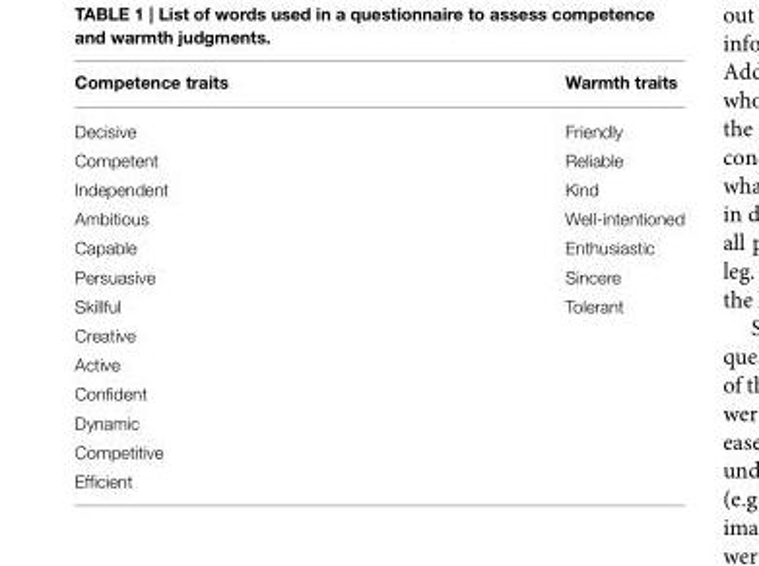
<table><thead><tr><td>Competence traits</td><td>Warmth traits</td></tr></thead><tbody><tr><td>Decisive</td><td>Friendly</td></tr><tr><td>Competent</td><td>Reliable</td></tr><tr><td>Independent</td><td>Kind</td></tr><tr><td>Ambitious</td><td>Well-intentioned</td></tr><tr><td>Capable</td><td>Enthusiastic</td></tr><tr><td>Persuasive</td><td>Sincere</td></tr><tr><td>Skillful</td><td>Tolerant</td></tr><tr><td colspan="2">Creative</td></tr><tr><td colspan="2">Active</td></tr><tr><td colspan="2">Confident</td></tr><tr><td colspan="2">Dynamic</td></tr><tr><td colspan="2">Competitive</td></tr><tr><td>Efficient</td><td></td></tr></tbody></table>